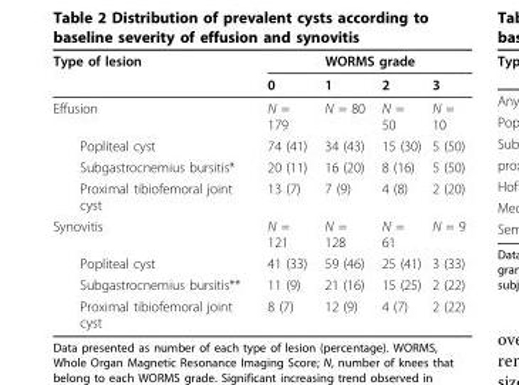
<table><thead><tr><td rowspan="2">Type of lesion</td><td colspan="4">WORMS grade</td></tr><tr><td>0</td><td>1</td><td>2</td><td>3</td></tr></thead><tbody><tr><td>Effusion</td><td>N = 179</td><td>N = 80</td><td>N = 50</td><td>N = 10</td></tr><tr><td>Popliteal cyst</td><td>74 (41)</td><td>34 (43)</td><td>15 (30)</td><td>5 (50)</td></tr><tr><td>Subgastrocnemius bursitis*</td><td>20 (11)</td><td>16 (20)</td><td>8 (16)</td><td>5 (50)</td></tr><tr><td>Proximal tibiofemoral joint cyst</td><td>13 (7)</td><td>7 (9)</td><td>4 (8)</td><td>2 (20)</td></tr><tr><td>Synovitis</td><td>N = 121</td><td>N = 128</td><td>N = 61</td><td>N = 9</td></tr><tr><td>Popliteal cyst</td><td>41 (33)</td><td>59 (46)</td><td>25 (41)</td><td>3 (33)</td></tr><tr><td>Subgastrocnemius bursitis**</td><td>11 (9)</td><td>21 (16)</td><td>15 (25)</td><td>2 (22)</td></tr><tr><td>Proximal tibiofemoral joint cyst</td><td>8 (7)</td><td>12 (9)</td><td>4 (7)</td><td>2 (22)</td></tr></tbody></table>